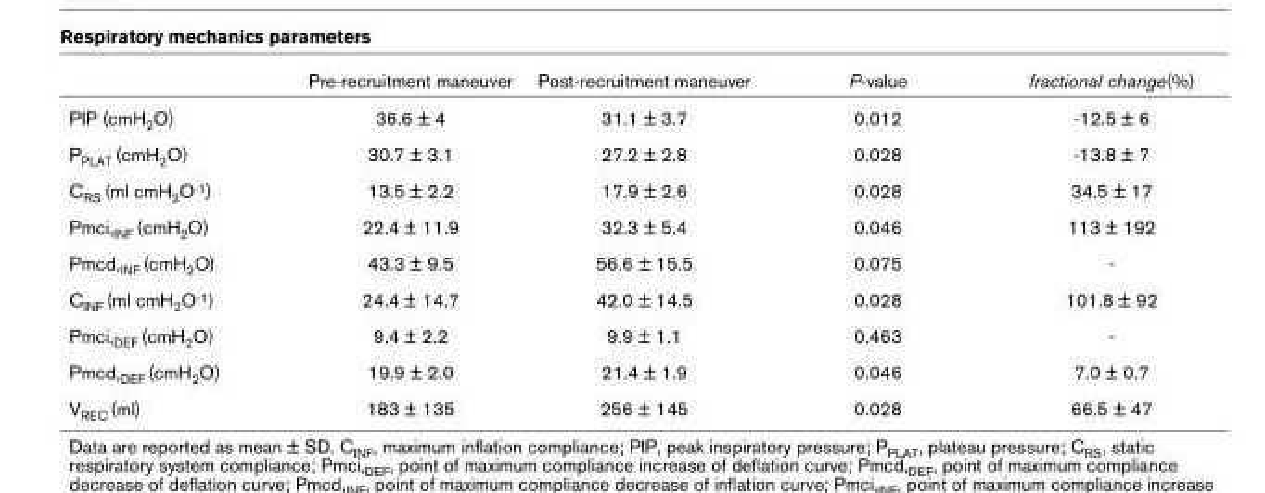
<table><thead><tr><td></td><td>Pre-recruitment maneuver</td><td>Post-recruitment maneuver</td><td>P-value</td><td>fractional change(%)</td></tr></thead><tbody><tr><td>PIP (cmH2O)</td><td>36.6 ± 4</td><td>31.1 ± 3.7</td><td>0.012</td><td>-12.5 ± 6</td></tr><tr><td>PPLAT (cmH2O)</td><td>30.7 ± 3.1</td><td>27.2 ± 2.8</td><td>0.028</td><td>-13.8 ± 7</td></tr><tr><td>CRS (ml cmH2O-1)</td><td>13.5 ± 2.2</td><td>17.9 ± 2.6</td><td>0.028</td><td>34.5 ± 17</td></tr><tr><td>Pmci,INF (cmH2O)</td><td>22.4 ± 11.9</td><td>32.3 ± 5.4</td><td>0.046</td><td>113 ± 192</td></tr><tr><td>Pmcd,INF (cmH2O)</td><td>43.3 ± 9.5</td><td>56.6 ± 15.5</td><td>0.075</td><td>-</td></tr><tr><td>CINF (ml cmH2O-1)</td><td>24.4 ± 14.7</td><td>42.0 ± 14.5</td><td>0.028</td><td>101.8 ± 92</td></tr><tr><td>Pmci,DEF (cmH2O)</td><td>9.4 ± 2.2</td><td>9.9 ± 1.1</td><td>0.463</td><td>-</td></tr><tr><td>Pmcd,DEF (cmH2O)</td><td>19.9 ± 2.0</td><td>21.4 ± 1.9</td><td>0.046</td><td>7.0 ± 0.7</td></tr><tr><td>VREC (ml)</td><td>183 ± 135</td><td>256 ± 145</td><td>0.028</td><td>66.5 ± 47</td></tr></tbody></table>